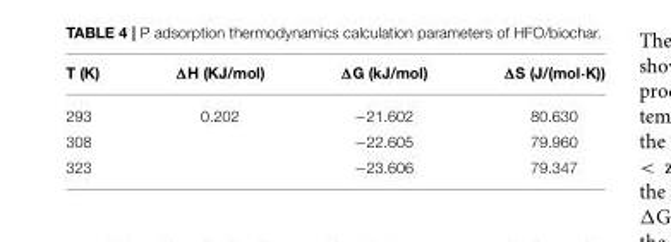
<table><thead><tr><td>T (K)</td><td>ΔH (KJ/mol)</td><td>ΔG (kJ/mol)</td><td>ΔS (J/(mol·K))</td></tr></thead><tbody><tr><td>293</td><td>0.202</td><td>−21.602</td><td>80.630</td></tr><tr><td>308</td><td></td><td>−22.605</td><td>79.960</td></tr><tr><td>323</td><td></td><td>−23.606</td><td>79.347</td></tr></tbody></table>